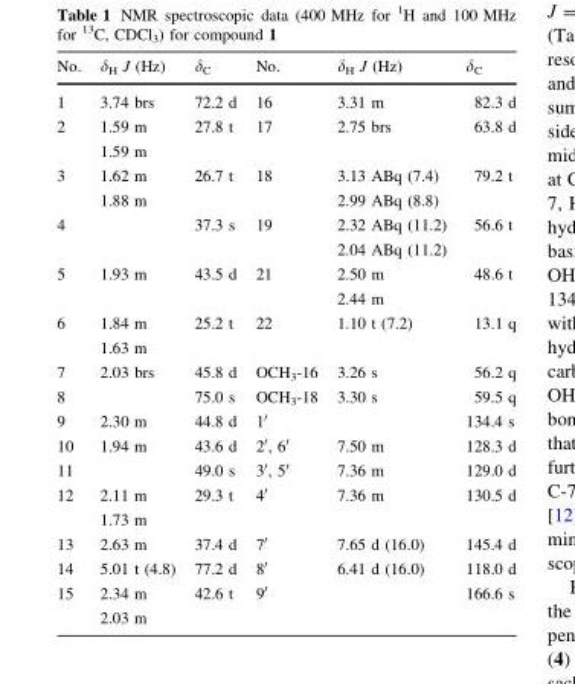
<table><thead><tr><td>No.</td><td>δ<sub>H</sub> J (Hz)</td><td>δ<sub>C</sub></td><td>No.</td><td>δ<sub>H</sub> J (Hz)</td><td>δ<sub>C</sub></td></tr></thead><tbody><tr><td>1</td><td>3.74 brs</td><td>72.2 d</td><td>16</td><td>3.31 m</td><td>82.3 d</td></tr><tr><td rowspan="2">2</td><td>1.59 m</td><td>27.8 t</td><td>17</td><td>2.75 brs</td><td>63.8 d</td></tr><tr><td>1.59 m</td><td></td><td></td><td></td><td></td></tr><tr><td rowspan="2">3</td><td>1.62 m</td><td>26.7 t</td><td>18</td><td>3.13 ABq (7.4)</td><td>79.2 t</td></tr><tr><td>1.88 m</td><td></td><td></td><td>2.99 ABq (8.8)</td><td></td></tr><tr><td rowspan="2">4</td><td></td><td>37.3 s</td><td>19</td><td>2.32 ABq (11.2)</td><td>56.6 t</td></tr><tr><td></td><td></td><td></td><td>2.04 ABq (11.2)</td><td></td></tr><tr><td rowspan="2">5</td><td>1.93 m</td><td>43.5 d</td><td>21</td><td>2.50 m</td><td>48.6 t</td></tr><tr><td></td><td></td><td></td><td>2.44 m</td><td></td></tr><tr><td rowspan="2">6</td><td>1.84 m</td><td>25.2 t</td><td>22</td><td>1.10 t (7.2)</td><td>13.1 q</td></tr><tr><td>1.63 m</td><td></td><td></td><td></td><td></td></tr><tr><td>7</td><td>2.03 brs</td><td>45.8 d</td><td>OCH<sub>3</sub>-16</td><td>3.26 s</td><td>56.2 q</td></tr><tr><td>8</td><td></td><td>75.0 s</td><td>OCH<sub>3</sub>-18</td><td>3.30 s</td><td>59.5 q</td></tr><tr><td>9</td><td>2.30 m</td><td>44.8 d</td><td>1′</td><td></td><td>134.4 s</td></tr><tr><td>10</td><td>1.94 m</td><td>43.6 d</td><td>2′, 6′</td><td>7.50 m</td><td>128.3 d</td></tr><tr><td>11</td><td></td><td>49.0 s</td><td>3′, 5′</td><td>7.36 m</td><td>129.0 d</td></tr><tr><td rowspan="2">12</td><td>2.11 m</td><td>29.3 t</td><td>4′</td><td>7.36 m</td><td>130.5 d</td></tr><tr><td>1.73 m</td><td></td><td></td><td></td><td></td></tr><tr><td>13</td><td>2.63 m</td><td>37.4 d</td><td>7′</td><td>7.65 d (16.0)</td><td>145.4 d</td></tr><tr><td>14</td><td>5.01 t (4.8)</td><td>77.2 d</td><td>8′</td><td>6.41 d (16.0)</td><td>118.0 d</td></tr><tr><td rowspan="2">15</td><td>2.34 m</td><td>42.6 t</td><td>9′</td><td></td><td>166.6 s</td></tr><tr><td>2.03 m</td><td></td><td></td><td></td><td></td></tr></tbody></table>